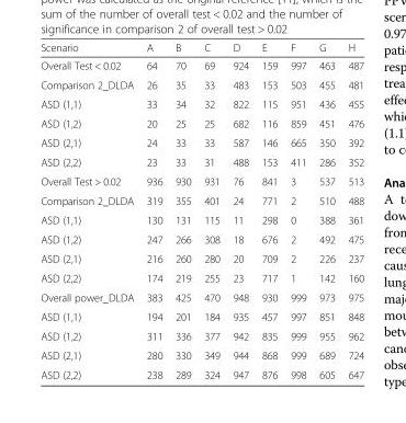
<table><thead><tr><td>Scenario</td><td>A</td><td>B</td><td>C</td><td>D</td><td>E</td><td>F</td><td>G</td><td>H</td></tr></thead><tbody><tr><td>Overall Test &lt; 0.02</td><td>64</td><td>70</td><td>69</td><td>924</td><td>159</td><td>997</td><td>463</td><td>487</td></tr><tr><td>Comparison 2_DLDA</td><td>26</td><td>35</td><td>33</td><td>483</td><td>153</td><td>503</td><td>455</td><td>481</td></tr><tr><td>ASD (1,1)</td><td>33</td><td>34</td><td>32</td><td>822</td><td>115</td><td>951</td><td>436</td><td>455</td></tr><tr><td>ASD (1,2)</td><td>20</td><td>25</td><td>25</td><td>682</td><td>116</td><td>859</td><td>451</td><td>476</td></tr><tr><td>ASD (2,1)</td><td>24</td><td>33</td><td>33</td><td>587</td><td>146</td><td>665</td><td>350</td><td>392</td></tr><tr><td>ASD (2,2)</td><td>23</td><td>33</td><td>31</td><td>488</td><td>153</td><td>411</td><td>286</td><td>352</td></tr><tr><td>Overall Test &gt; 0.02</td><td>936</td><td>930</td><td>931</td><td>76</td><td>841</td><td>3</td><td>537</td><td>513</td></tr><tr><td>Comparison 2_DLDA</td><td>319</td><td>355</td><td>401</td><td>24</td><td>771</td><td>2</td><td>510</td><td>488</td></tr><tr><td>ASD (1,1)</td><td>130</td><td>131</td><td>115</td><td>11</td><td>298</td><td>0</td><td>388</td><td>361</td></tr><tr><td>ASD (1,2)</td><td>247</td><td>266</td><td>308</td><td>18</td><td>676</td><td>2</td><td>492</td><td>475</td></tr><tr><td>ASD (2,1)</td><td>216</td><td>260</td><td>280</td><td>20</td><td>709</td><td>2</td><td>226</td><td>237</td></tr><tr><td>ASD (2,2)</td><td>174</td><td>219</td><td>255</td><td>23</td><td>717</td><td>1</td><td>142</td><td>160</td></tr><tr><td>Overall power_DLDA</td><td>383</td><td>425</td><td>470</td><td>948</td><td>930</td><td>999</td><td>973</td><td>975</td></tr><tr><td>ASD (1,1)</td><td>194</td><td>201</td><td>184</td><td>935</td><td>457</td><td>997</td><td>851</td><td>848</td></tr><tr><td>ASD (1,2)</td><td>311</td><td>336</td><td>377</td><td>942</td><td>835</td><td>999</td><td>955</td><td>962</td></tr><tr><td>ASD (2,1)</td><td>280</td><td>330</td><td>349</td><td>944</td><td>868</td><td>999</td><td>689</td><td>724</td></tr><tr><td>ASD (2,2)</td><td>238</td><td>289</td><td>324</td><td>947</td><td>876</td><td>998</td><td>605</td><td>647</td></tr></tbody></table>